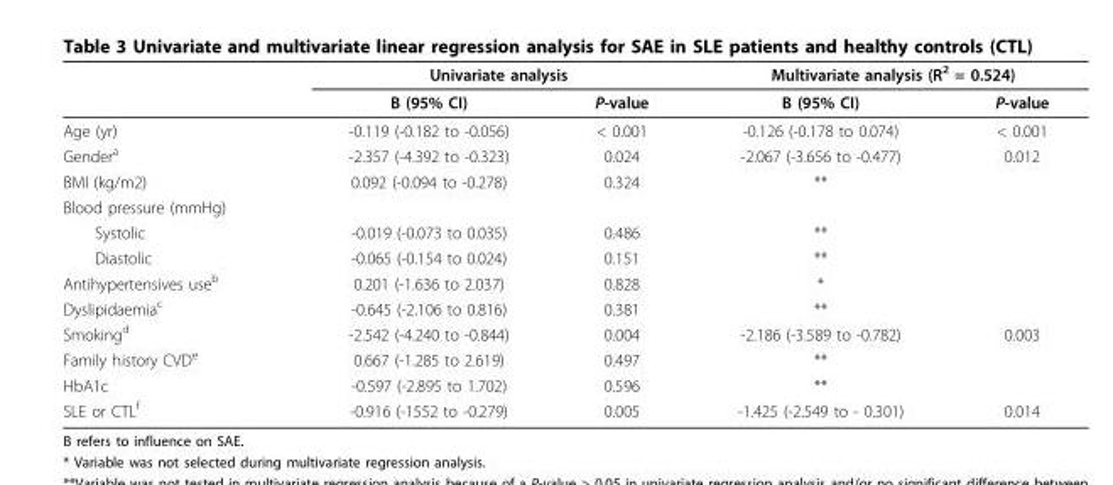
<table><thead><tr><td rowspan="2"></td><td colspan="2">Univariate analysis</td><td colspan="2">Multivariate analysis (R<sup>2</sup> = 0.524)</td></tr><tr><td>B (95% CI)</td><td>P-value</td><td>B (95% CI)</td><td>P-value</td></tr></thead><tbody><tr><td>Age (yr)</td><td>-0.119 (-0.182 to -0.056)</td><td>&lt; 0.001</td><td>-0.126 (-0.178 to 0.074)</td><td>&lt; 0.001</td></tr><tr><td>Gender<sup>a</sup></td><td>-2.357 (-4.392 to -0.323)</td><td>0.024</td><td>-2.067 (-3.656 to -0.477)</td><td>0.012</td></tr><tr><td>BMI (kg/m2)</td><td>0.092 (-0.094 to -0.278)</td><td>0.324</td><td>**</td><td></td></tr><tr><td colspan="5">Blood pressure (mmHg)</td></tr><tr><td>Systolic</td><td>-0.019 (-0.073 to 0.035)</td><td>0.486</td><td>**</td><td></td></tr><tr><td>Diastolic</td><td>-0.065 (-0.154 to 0.024)</td><td>0.151</td><td>**</td><td></td></tr><tr><td>Antihypertensives use<sup>b</sup></td><td>0.201 (-1.636 to 2.037)</td><td>0.828</td><td>*</td><td></td></tr><tr><td>Dyslipidaemia<sup>c</sup></td><td>-0.645 (-2.106 to 0.816)</td><td>0.381</td><td>**</td><td></td></tr><tr><td>Smoking<sup>d</sup></td><td>-2.542 (-4.240 to -0.844)</td><td>0.004</td><td>-2.186 (-3.589 to -0.782)</td><td>0.003</td></tr><tr><td>Family history CVD<sup>e</sup></td><td>0.667 (-1.285 to 2.619)</td><td>0.497</td><td>**</td><td></td></tr><tr><td>HbA1c</td><td>-0.597 (-2.895 to 1.702)</td><td>0.596</td><td>**</td><td></td></tr><tr><td>SLE or CTL<sup>f</sup></td><td>-0.916 (-1552 to -0.279)</td><td>0.005</td><td>-1.425 (-2.549 to - 0.301)</td><td>0.014</td></tr></tbody></table>